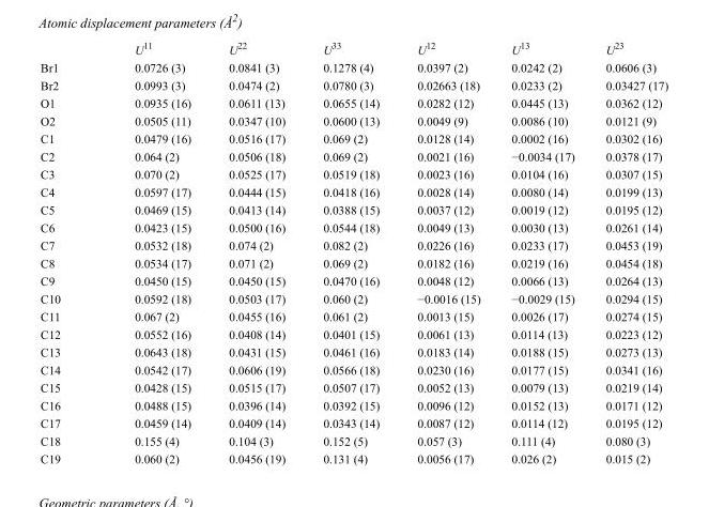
<table><thead><tr><td></td><td>U<sup>11</sup></td><td>U<sup>22</sup></td><td>U<sup>33</sup></td><td>U<sup>12</sup></td><td>U<sup>13</sup></td><td>U<sup>23</sup></td></tr></thead><tbody><tr><td>Br1</td><td>0.0726 (3)</td><td>0.0841 (3)</td><td>0.1278 (4)</td><td>0.0397 (2)</td><td>0.0242 (2)</td><td>0.0606 (3)</td></tr><tr><td>Br2</td><td>0.0993 (3)</td><td>0.0474 (2)</td><td>0.0780 (3)</td><td>0.02663 (18)</td><td>0.0233 (2)</td><td>0.03427 (17)</td></tr><tr><td>O1</td><td>0.0935 (16)</td><td>0.0611 (13)</td><td>0.0655 (14)</td><td>0.0282 (12)</td><td>0.0445 (13)</td><td>0.0362 (12)</td></tr><tr><td>O2</td><td>0.0505 (11)</td><td>0.0347 (10)</td><td>0.0600 (13)</td><td>0.0049 (9)</td><td>0.0086 (10)</td><td>0.0121 (9)</td></tr><tr><td>C1</td><td>0.0479 (16)</td><td>0.0516 (17)</td><td>0.069 (2)</td><td>0.0128 (14)</td><td>0.0002 (16)</td><td>0.0302 (16)</td></tr><tr><td>C2</td><td>0.064 (2)</td><td>0.0506 (18)</td><td>0.069 (2)</td><td>0.0021 (16)</td><td>−0.0034 (17)</td><td>0.0378 (17)</td></tr><tr><td>C3</td><td>0.070 (2)</td><td>0.0525 (17)</td><td>0.0519 (18)</td><td>0.0023 (16)</td><td>0.0104 (16)</td><td>0.0307 (15)</td></tr><tr><td>C4</td><td>0.0597 (17)</td><td>0.0444 (15)</td><td>0.0418 (16)</td><td>0.0028 (14)</td><td>0.0080 (14)</td><td>0.0199 (13)</td></tr><tr><td>C5</td><td>0.0469 (15)</td><td>0.0413 (14)</td><td>0.0388 (15)</td><td>0.0037 (12)</td><td>0.0019 (12)</td><td>0.0195 (12)</td></tr><tr><td>C6</td><td>0.0423 (15)</td><td>0.0500 (16)</td><td>0.0544 (18)</td><td>0.0049 (13)</td><td>0.0030 (13)</td><td>0.0261 (14)</td></tr><tr><td>C7</td><td>0.0532 (18)</td><td>0.074 (2)</td><td>0.082 (2)</td><td>0.0226 (16)</td><td>0.0233 (17)</td><td>0.0453 (19)</td></tr><tr><td>C8</td><td>0.0534 (17)</td><td>0.071 (2)</td><td>0.069 (2)</td><td>0.0182 (16)</td><td>0.0219 (16)</td><td>0.0454 (18)</td></tr><tr><td>C9</td><td>0.0450 (15)</td><td>0.0450 (15)</td><td>0.0470 (16)</td><td>0.0048 (12)</td><td>0.0066 (13)</td><td>0.0264 (13)</td></tr><tr><td>C10</td><td>0.0592 (18)</td><td>0.0503 (17)</td><td>0.060 (2)</td><td>−0.0016 (15)</td><td>−0.0029 (15)</td><td>0.0294 (15)</td></tr><tr><td>C11</td><td>0.067 (2)</td><td>0.0455 (16)</td><td>0.061 (2)</td><td>0.0013 (15)</td><td>0.0026 (17)</td><td>0.0274 (15)</td></tr><tr><td>C12</td><td>0.0552 (16)</td><td>0.0408 (14)</td><td>0.0401 (15)</td><td>0.0061 (13)</td><td>0.0114 (13)</td><td>0.0223 (12)</td></tr><tr><td>C13</td><td>0.0643 (18)</td><td>0.0431 (15)</td><td>0.0461 (16)</td><td>0.0183 (14)</td><td>0.0188 (15)</td><td>0.0273 (13)</td></tr><tr><td>C14</td><td>0.0542 (17)</td><td>0.0606 (19)</td><td>0.0566 (18)</td><td>0.0230 (16)</td><td>0.0177 (15)</td><td>0.0341 (16)</td></tr><tr><td>C15</td><td>0.0428 (15)</td><td>0.0515 (17)</td><td>0.0507 (17)</td><td>0.0052 (13)</td><td>0.0079 (13)</td><td>0.0219 (14)</td></tr><tr><td>C16</td><td>0.0488 (15)</td><td>0.0396 (14)</td><td>0.0392 (15)</td><td>0.0096 (12)</td><td>0.0152 (13)</td><td>0.0171 (12)</td></tr><tr><td>C17</td><td>0.0459 (14)</td><td>0.0409 (14)</td><td>0.0343 (14)</td><td>0.0087 (12)</td><td>0.0114 (12)</td><td>0.0195 (12)</td></tr><tr><td>C18</td><td>0.155 (4)</td><td>0.104 (3)</td><td>0.152 (5)</td><td>0.057 (3)</td><td>0.111 (4)</td><td>0.080 (3)</td></tr><tr><td>C19</td><td>0.060 (2)</td><td>0.0456 (19)</td><td>0.131 (4)</td><td>0.0056 (17)</td><td>0.026 (2)</td><td>0.015 (2)</td></tr></tbody></table>